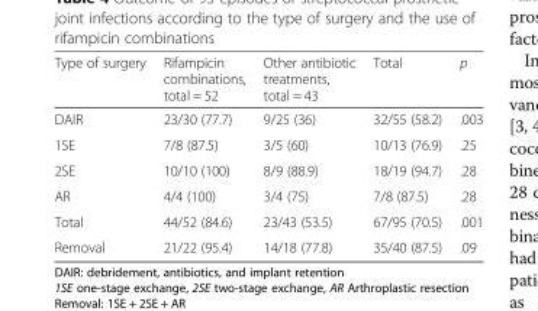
<table><thead><tr><td>Type of surgery</td><td>Rifampicin combinations, total = 52</td><td>Other antibiotic treatments, total = 43</td><td>Total</td><td>p</td></tr></thead><tbody><tr><td>DAIR</td><td>23/30 (77.7)</td><td>9/25 (36)</td><td>32/55 (58.2)</td><td>.003</td></tr><tr><td>1SE</td><td>7/8 (87.5)</td><td>3/5 (60)</td><td>10/13 (76.9)</td><td>.25</td></tr><tr><td>2SE</td><td>10/10 (100)</td><td>8/9 (88.9)</td><td>18/19 (94.7)</td><td>.28</td></tr><tr><td>AR</td><td>4/4 (100)</td><td>3/4 (75)</td><td>7/8 (87.5)</td><td>.28</td></tr><tr><td>Total</td><td>44/52 (84.6)</td><td>23/43 (53.5)</td><td>67/95 (70.5)</td><td>.001</td></tr><tr><td>Removal</td><td>21/22 (95.4)</td><td>14/18 (77.8)</td><td>35/40 (87.5)</td><td>.09</td></tr></tbody></table>